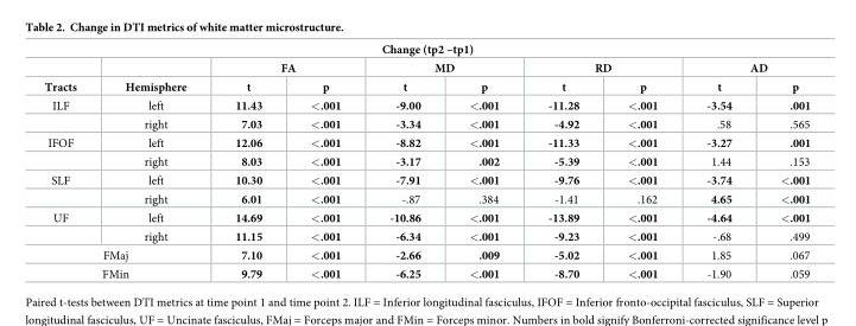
<table><thead><tr><td colspan="10">Change (tp2 –tp1)</td></tr><tr><td rowspan="2">Tracts</td><td rowspan="2">Hemisphere</td><td colspan="2">FA</td><td colspan="2">MD</td><td colspan="2">RD</td><td colspan="2">AD</td></tr><tr><td>t</td><td>p</td><td>t</td><td>p</td><td>t</td><td>p</td><td>t</td><td>p</td></tr></thead><tbody><tr><td rowspan="2">ILF</td><td>left</td><td>11.43</td><td>&lt;.001</td><td>-9.00</td><td>&lt;.001</td><td>-11.28</td><td>&lt;.001</td><td>-3.54</td><td>.001</td></tr><tr><td>right</td><td>7.03</td><td>&lt;.001</td><td>-3.34</td><td>&lt;.001</td><td>-4.92</td><td>&lt;.001</td><td>.58</td><td>.565</td></tr><tr><td rowspan="2">IFOF</td><td>left</td><td>12.06</td><td>&lt;.001</td><td>-8.82</td><td>&lt;.001</td><td>-11.33</td><td>&lt;.001</td><td>-3.27</td><td>.001</td></tr><tr><td>right</td><td>8.03</td><td>&lt;.001</td><td>-3.17</td><td>.002</td><td>-5.39</td><td>&lt;.001</td><td>1.44</td><td>.153</td></tr><tr><td rowspan="2">SLF</td><td>left</td><td>10.30</td><td>&lt;.001</td><td>-7.91</td><td>&lt;.001</td><td>-9.76</td><td>&lt;.001</td><td>-3.74</td><td>&lt;.001</td></tr><tr><td>right</td><td>6.01</td><td>&lt;.001</td><td>-.87</td><td>.384</td><td>-1.41</td><td>.162</td><td>4.65</td><td>&lt;.001</td></tr><tr><td rowspan="2">UF</td><td>left</td><td>14.69</td><td>&lt;.001</td><td>-10.86</td><td>&lt;.001</td><td>-13.89</td><td>&lt;.001</td><td>-4.64</td><td>&lt;.001</td></tr><tr><td>right</td><td>11.15</td><td>&lt;.001</td><td>-6.34</td><td>&lt;.001</td><td>-9.23</td><td>&lt;.001</td><td>-.68</td><td>.499</td></tr><tr><td colspan="2">FMaj</td><td>7.10</td><td>&lt;.001</td><td>-2.66</td><td>.009</td><td>-5.02</td><td>&lt;.001</td><td>1.85</td><td>.067</td></tr><tr><td colspan="2">FMin</td><td>9.79</td><td>&lt;.001</td><td>-6.25</td><td>&lt;.001</td><td>-8.70</td><td>&lt;.001</td><td>-1.90</td><td>.059</td></tr></tbody></table>